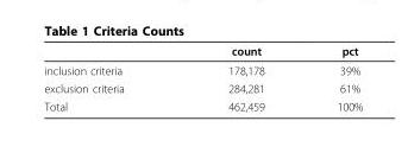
<table><thead><tr><td></td><td>count</td><td>pct</td></tr></thead><tbody><tr><td>inclusion criteria</td><td>178,178</td><td>39%</td></tr><tr><td>exclusion criteria</td><td>284,281</td><td>61%</td></tr><tr><td>Total</td><td>462,459</td><td>100%</td></tr></tbody></table>